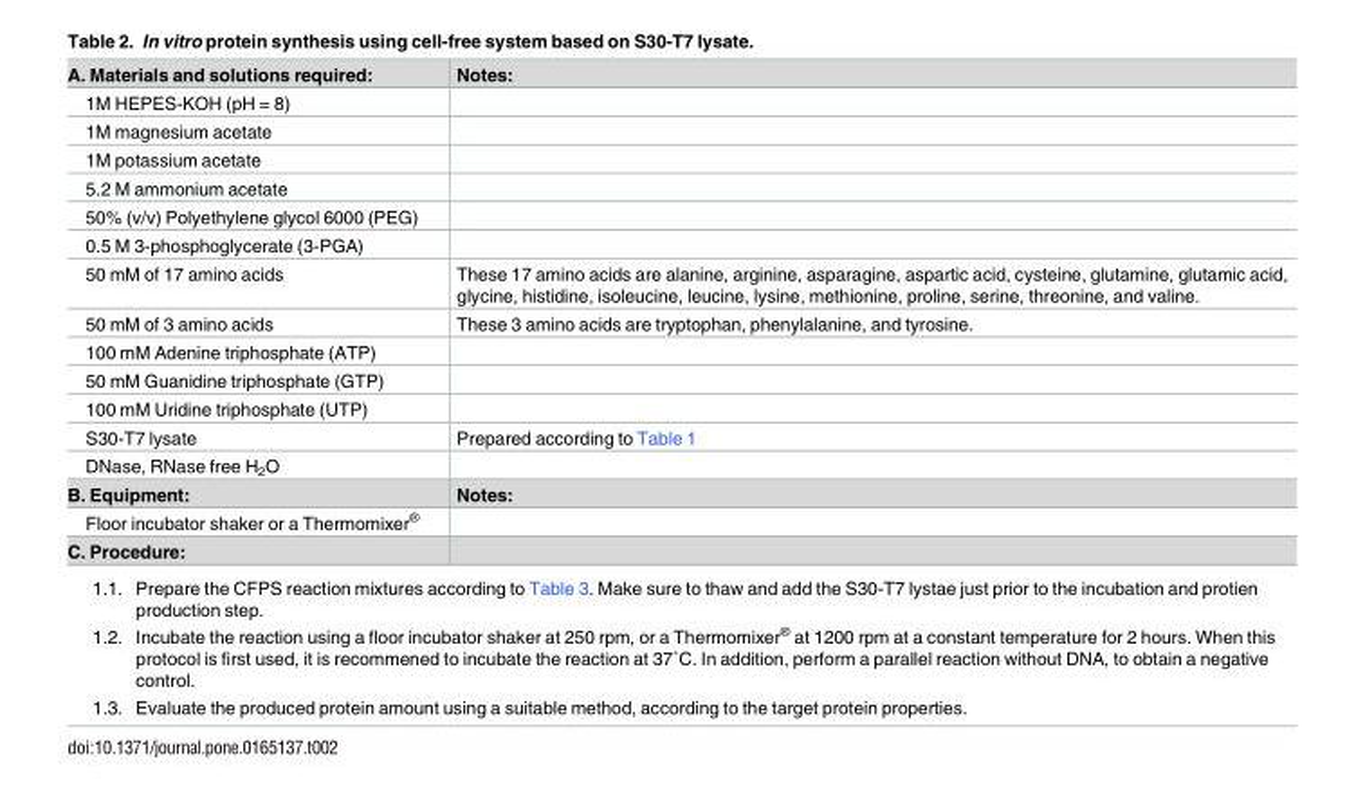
<table><tbody><tr><td>A. Materials and solutions required:</td><td>Notes:</td></tr><tr><td colspan="2">1M HEPES-KOH (pH = 8)</td></tr><tr><td colspan="2">1M magnesium acetate</td></tr><tr><td colspan="2">1M potassium acetate</td></tr><tr><td colspan="2">5.2 M ammonium acetate</td></tr><tr><td colspan="2">50% (v/v) Polyethylene glycol 6000 (PEG)</td></tr><tr><td colspan="2">0.5 M 3-phosphoglycerate (3-PGA)</td></tr><tr><td>50 mM of 17 amino acids</td><td>These 17 amino acids are alanine, arginine, asparagine, aspartic acid, cysteine, glutamine, glutamic acid, glycine, histidine, isoleucine, leucine, lysine, methionine, proline, serine, threonine, and valine.</td></tr><tr><td>50 mM of 3 amino acids</td><td>These 3 amino acids are tryptophan, phenylalanine, and tyrosine.</td></tr><tr><td colspan="2">100 mM Adenine triphosphate (ATP)</td></tr><tr><td colspan="2">50 mM Guanidine triphosphate (GTP)</td></tr><tr><td colspan="2">100 mM Uridine triphosphate (UTP)</td></tr><tr><td>S30-T7 lysate</td><td>Prepared according to Table 1</td></tr><tr><td colspan="2">DNase, RNase free H<sub>2</sub>O</td></tr><tr><td>B. Equipment:</td><td>Notes:</td></tr><tr><td colspan="2">Floor incubator shaker or a Thermomixer<sup>®</sup></td></tr><tr><td colspan="2">C. Procedure:</td></tr><tr><td colspan="2">1.1. Prepare the CFPS reaction mixtures according to Table 3. Make sure to thaw and add the S30-T7 lystae just prior to the incubation and protien production step. 1.2. Incubate the reaction using a floor incubator shaker at 250 rpm, or a Thermomixer® at 1200 rpm at a constant temperature for 2 hours. When this protocol is first used, it is recommened to incubate the reaction at 37˚C. In addition, perform a parallel reaction without DNA, to obtain a negative control. 1.3. Evaluate the produced protein amount using a suitable method, according to the target protein properties.</td></tr></tbody></table>